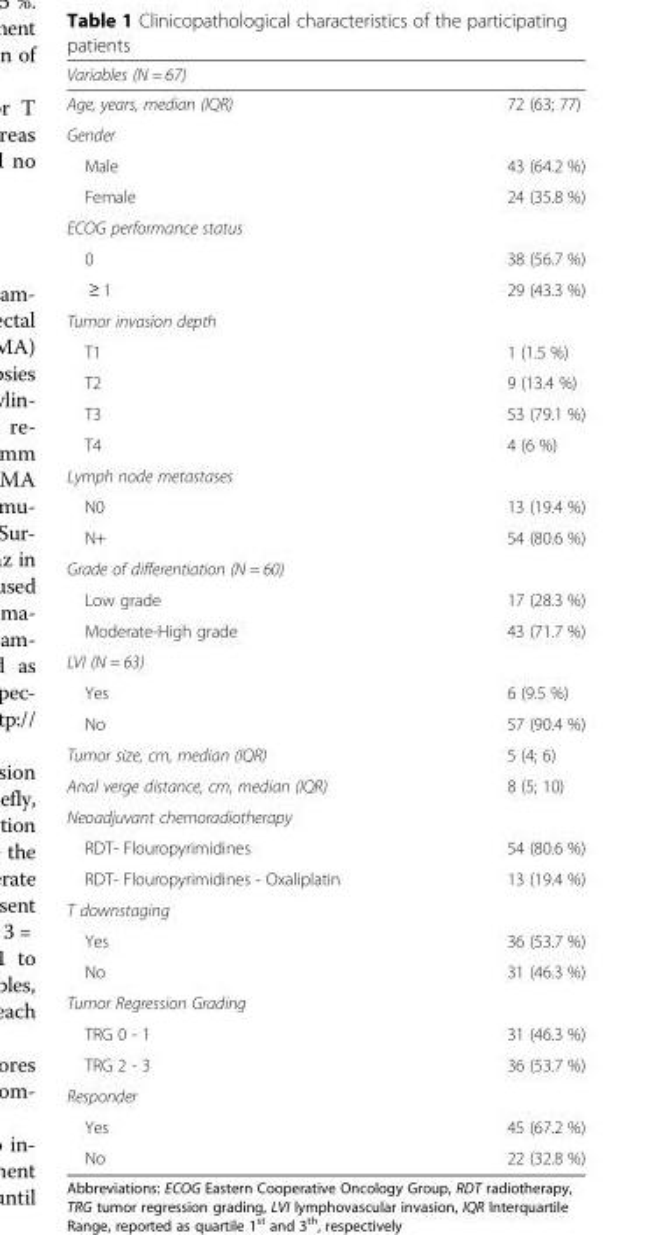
<table><thead><tr><td>Variables (N = 67)</td><td></td></tr></thead><tbody><tr><td>Age, years, median (IQR)</td><td>72 (63; 77)</td></tr><tr><td colspan="2">Gender</td></tr><tr><td>Male</td><td>43 (64.2 %)</td></tr><tr><td>Female</td><td>24 (35.8 %)</td></tr><tr><td colspan="2">ECOG performance status</td></tr><tr><td>0</td><td>38 (56.7 %)</td></tr><tr><td>≥ 1</td><td>29 (43.3 %)</td></tr><tr><td colspan="2">Tumor invasion depth</td></tr><tr><td>T1</td><td>1 (1.5 %)</td></tr><tr><td>T2</td><td>9 (13.4 %)</td></tr><tr><td>T3</td><td>53 (79.1 %)</td></tr><tr><td>T4</td><td>4 (6 %)</td></tr><tr><td colspan="2">Lymph node metastases</td></tr><tr><td>N0</td><td>13 (19.4 %)</td></tr><tr><td>N+</td><td>54 (80.6 %)</td></tr><tr><td colspan="2">Grade of differentiation (N = 60)</td></tr><tr><td>Low grade</td><td>17 (28.3 %)</td></tr><tr><td>Moderate-High grade</td><td>43 (71.7 %)</td></tr><tr><td colspan="2">LVI (N = 63)</td></tr><tr><td>Yes</td><td>6 (9.5 %)</td></tr><tr><td>No</td><td>57 (90.4 %)</td></tr><tr><td>Tumor size, cm, median (IQR)</td><td>5 (4; 6)</td></tr><tr><td>Anal verge distance, cm, median (IQR)</td><td>8 (5; 10)</td></tr><tr><td colspan="2">Neoadjuvant chemoradiotherapy</td></tr><tr><td>RDT- Flouropyrimidines</td><td>54 (80.6 %)</td></tr><tr><td>RDT- Flouropyrimidines - Oxaliplatin</td><td>13 (19.4 %)</td></tr><tr><td colspan="2">T downstaging</td></tr><tr><td>Yes</td><td>36 (53.7 %)</td></tr><tr><td>No</td><td>31 (46.3 %)</td></tr><tr><td colspan="2">Tumor Regression Grading</td></tr><tr><td>TRG 0 - 1</td><td>31 (46.3 %)</td></tr><tr><td>TRG 2 - 3</td><td>36 (53.7 %)</td></tr><tr><td colspan="2">Responder</td></tr><tr><td>Yes</td><td>45 (67.2 %)</td></tr><tr><td>No</td><td>22 (32.8 %)</td></tr></tbody></table>